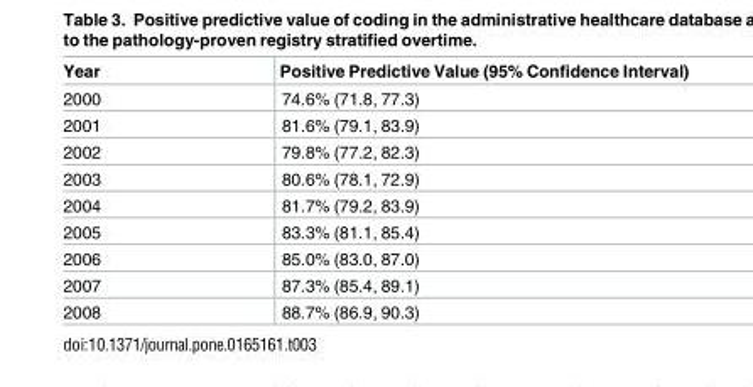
<table><thead><tr><td>Year</td><td>Positive Predictive Value (95% Confidence Interval)</td></tr></thead><tbody><tr><td>2000</td><td>74.6% (71.8, 77.3)</td></tr><tr><td>2001</td><td>81.6% (79.1, 83.9)</td></tr><tr><td>2002</td><td>79.8% (77.2, 82.3)</td></tr><tr><td>2003</td><td>80.6% (78.1, 72.9)</td></tr><tr><td>2004</td><td>81.7% (79.2, 83.9)</td></tr><tr><td>2005</td><td>83.3% (81.1, 85.4)</td></tr><tr><td>2006</td><td>85.0% (83.0, 87.0)</td></tr><tr><td>2007</td><td>87.3% (85.4, 89.1)</td></tr><tr><td>2008</td><td>88.7% (86.9, 90.3)</td></tr></tbody></table>